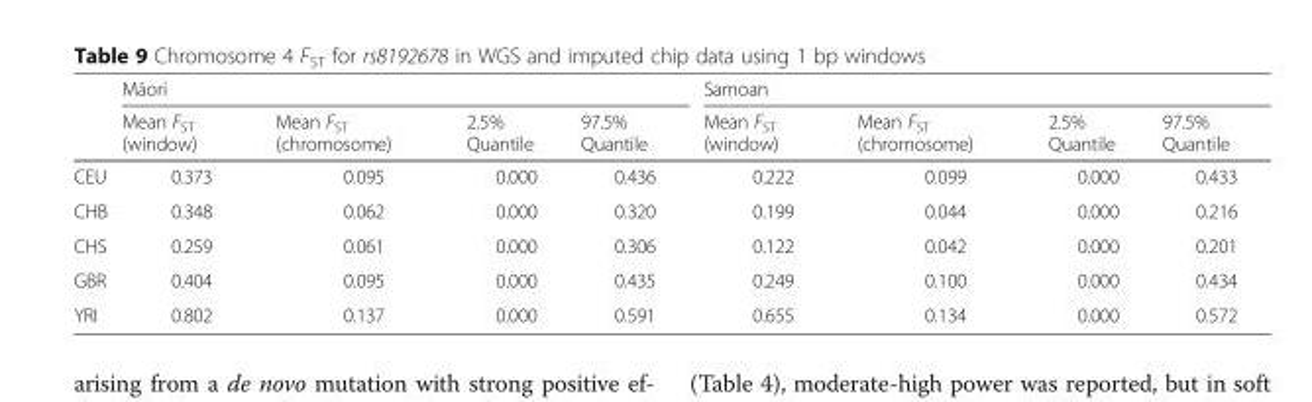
<table><thead><tr><td rowspan="2"></td><td colspan="4">Māori</td><td colspan="4">Samoan</td></tr><tr><td>Mean F<sub>ST</sub> (window)</td><td>Mean F<sub>ST</sub> (chromosome)</td><td>2.5% Quantile</td><td>97.5% Quantile</td><td>Mean F<sub>ST</sub> (window)</td><td>Mean F<sub>ST</sub> (chromosome)</td><td>2.5% Quantile</td><td>97.5% Quantile</td></tr></thead><tbody><tr><td>CEU</td><td>0.373</td><td>0.095</td><td>0.000</td><td>0.436</td><td>0.222</td><td>0.099</td><td>0.000</td><td>0.433</td></tr><tr><td>CHB</td><td>0.348</td><td>0.062</td><td>0.000</td><td>0.320</td><td>0.199</td><td>0.044</td><td>0.000</td><td>0.216</td></tr><tr><td>CHS</td><td>0.259</td><td>0.061</td><td>0.000</td><td>0.306</td><td>0.122</td><td>0.042</td><td>0.000</td><td>0.201</td></tr><tr><td>GBR</td><td>0.404</td><td>0.095</td><td>0.000</td><td>0.435</td><td>0.249</td><td>0.100</td><td>0.000</td><td>0.434</td></tr><tr><td>YRI</td><td>0.802</td><td>0.137</td><td>0.000</td><td>0.591</td><td>0.655</td><td>0.134</td><td>0.000</td><td>0.572</td></tr></tbody></table>